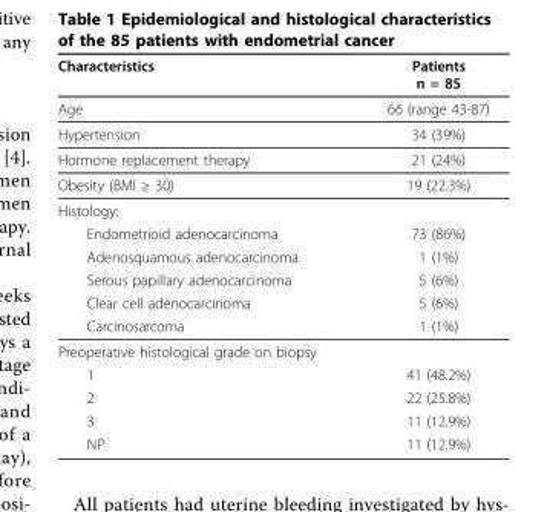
<table><thead><tr><td>Characteristics</td><td>Patients n = 85</td></tr></thead><tbody><tr><td>Age</td><td>66 (range 43-87)</td></tr><tr><td>Hypertension</td><td>34 (39%)</td></tr><tr><td>Hormone replacement therapy</td><td>21 (24%)</td></tr><tr><td>Obesity (BMI ≥ 30)</td><td>19 (22.3%)</td></tr><tr><td colspan="2">Histology:</td></tr><tr><td>Endometrioid adenocarcinoma</td><td>73 (86%)</td></tr><tr><td>Adenosquamous adenocarcinoma</td><td>1 (1%)</td></tr><tr><td>Serous papillary adenocarcinoma</td><td>5 (6%)</td></tr><tr><td>Clear cell adenocarcinoma</td><td>5 (6%)</td></tr><tr><td>Carcinosarcoma</td><td>1 (1%)</td></tr><tr><td colspan="2">Preoperative histological grade on biopsy</td></tr><tr><td>1</td><td>41 (48.2%)</td></tr><tr><td>2</td><td>22 (25.8%)</td></tr><tr><td>3</td><td>11 (12.9%)</td></tr><tr><td>NP</td><td>11 (12.9%)</td></tr></tbody></table>